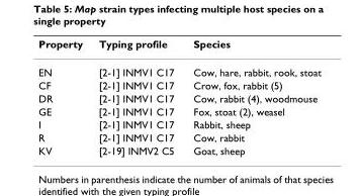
<table><thead><tr><td>Property</td><td>Typing profile</td><td>Species</td></tr></thead><tbody><tr><td>EN</td><td>[2-1] INMV1 C17</td><td>Cow, hare, rabbit, rook, stoat</td></tr><tr><td>CF</td><td>[2-1] INMV1 C17</td><td>Crow, fox, rabbit (5)</td></tr><tr><td>DR</td><td>[2-1] INMV1 C17</td><td>Cow, rabbit (4), woodmouse</td></tr><tr><td>GE</td><td>[2-1] INMV1 C17</td><td>Fox, stoat (2), weasel</td></tr><tr><td>I</td><td>[2-1] INMV1 C17</td><td>Rabbit, sheep</td></tr><tr><td>R</td><td>[2-1] INMV1 C17</td><td>Cow, rabbit</td></tr><tr><td>KV</td><td>[2-19] INMV2 C5</td><td>Goat, sheep</td></tr></tbody></table>